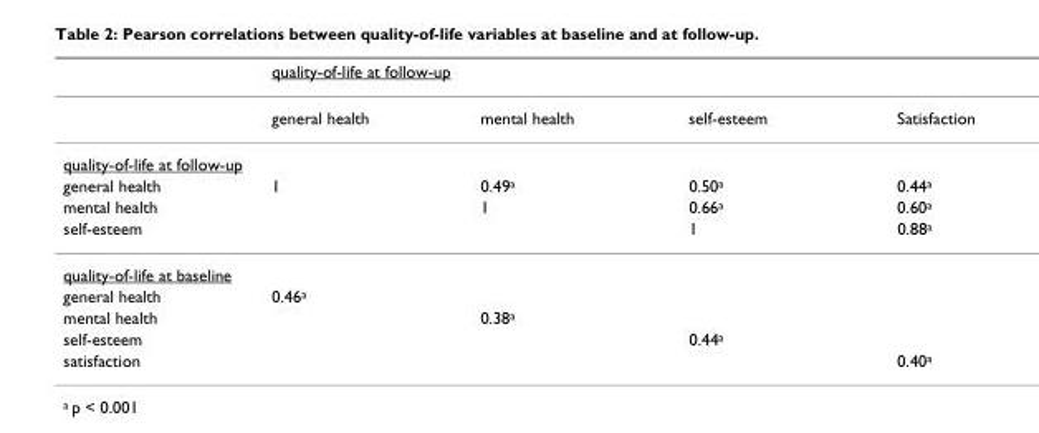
<table><thead><tr><td rowspan="2"></td><td colspan="4">quality-of-life at follow-up</td></tr><tr><td>general health</td><td>mental health</td><td>self-esteem</td><td>Satisfaction</td></tr></thead><tbody><tr><td colspan="5">quality-of-life at follow-up</td></tr><tr><td>general health</td><td>1</td><td>0.49a</td><td>0.50a</td><td>0.44a</td></tr><tr><td>mental health</td><td></td><td>1</td><td>0.66a</td><td>0.60a</td></tr><tr><td>self-esteem</td><td></td><td></td><td>1</td><td>0.88a</td></tr><tr><td colspan="5">quality-of-life at baseline</td></tr><tr><td>general health</td><td>0.46a</td><td></td><td></td><td></td></tr><tr><td>mental health</td><td></td><td>0.38a</td><td></td><td></td></tr><tr><td>self-esteem</td><td></td><td></td><td>0.44a</td><td></td></tr><tr><td>satisfaction</td><td></td><td></td><td></td><td>0.40a</td></tr></tbody></table>